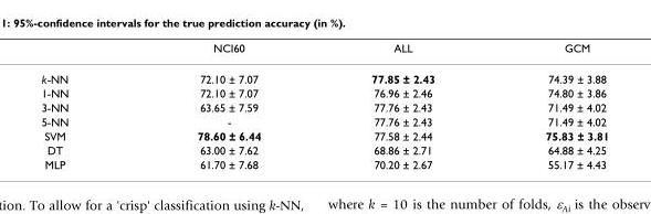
<table><thead><tr><td></td><td>NCI60</td><td>ALL</td><td>GCM</td></tr></thead><tbody><tr><td>k-NN</td><td>72.10 ± 7.07</td><td>77.85 ± 2.43</td><td>74.39 ± 3.88</td></tr><tr><td>1-NN</td><td>72.10 ± 7.07</td><td>76.96 ± 2.46</td><td>74.80 ± 3.86</td></tr><tr><td>3-NN</td><td>63.65 ± 7.59</td><td>77.76 ± 2.43</td><td>71.49 ± 4.02</td></tr><tr><td>5-NN</td><td>-</td><td>77.76 ± 2.43</td><td>71.49 ± 4.02</td></tr><tr><td>SVM</td><td>78.60 ± 6.44</td><td>77.58 ± 2.44</td><td>75.83 ± 3.81</td></tr><tr><td>DT</td><td>63.00 ± 7.62</td><td>68.86 ± 2.71</td><td>64.88 ± 4.25</td></tr><tr><td>MLP</td><td>61.70 ± 7.68</td><td>70.20 ± 2.67</td><td>55.17 ± 4.43</td></tr></tbody></table>